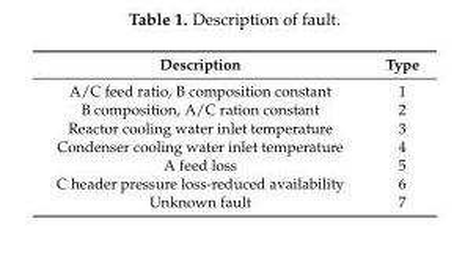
<table><thead><tr><td>Description</td><td>Type</td></tr></thead><tbody><tr><td>A/C feed ratio, B composition constant</td><td>1</td></tr><tr><td>B composition, A/C ration constant</td><td>2</td></tr><tr><td>Reactor cooling water inlet temperature</td><td>3</td></tr><tr><td>Condenser cooling water inlet temperature</td><td>4</td></tr><tr><td>A feed loss</td><td>5</td></tr><tr><td>C header pressure loss-reduced availability</td><td>6</td></tr><tr><td>Unknown fault</td><td>7</td></tr></tbody></table>